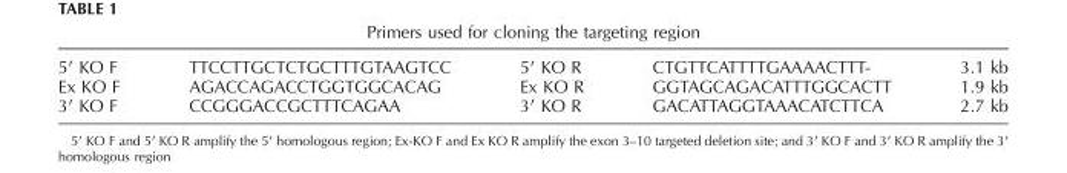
<table><tbody><tr><td>5′ KO F</td><td>TTCCTTGCTCTGCTTTGTAAGTCC</td><td>5′ KO R</td><td>CTGTTCATTTTGAAAACTTT-</td><td>3.1 kb</td></tr><tr><td>Ex KO F</td><td>AGACCAGACCTGGTGGCACAG</td><td>Ex KO R</td><td>GGTAGCAGACATTTGGCACTT</td><td>1.9 kb</td></tr><tr><td>3′ KO F</td><td>CCGGGACCGCTTTCAGAA</td><td>3′ KO R</td><td>GACATTAGGTAAACATCTTCA</td><td>2.7 kb</td></tr></tbody></table>